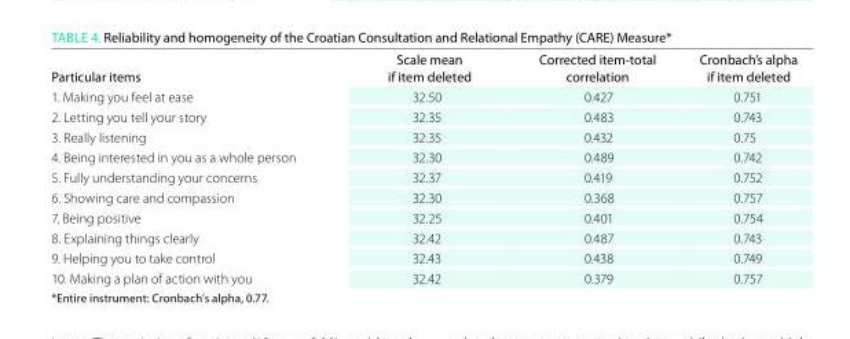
<table><thead><tr><td>Particular items</td><td>Scale mean if item deleted</td><td>Corrected item-total correlation</td><td>Cronbach’s alpha if item deleted</td></tr></thead><tbody><tr><td>1. Making you feel at ease</td><td>32.50</td><td>0.427</td><td>0.751</td></tr><tr><td>2. Letting you tell your story</td><td>32.35</td><td>0.483</td><td>0.743</td></tr><tr><td>3. Really listening</td><td>32.35</td><td>0.432</td><td>0.75</td></tr><tr><td>4. Being interested in you as a whole person</td><td>32.30</td><td>0.489</td><td>0.742</td></tr><tr><td>5. Fully understanding your concerns</td><td>32.37</td><td>0.419</td><td>0.752</td></tr><tr><td>6. Showing care and compassion</td><td>32.30</td><td>0.368</td><td>0.757</td></tr><tr><td>7. Being positive</td><td>32.25</td><td>0.401</td><td>0.754</td></tr><tr><td>8. Explaining things clearly</td><td>32.42</td><td>0.487</td><td>0.743</td></tr><tr><td>9. Helping you to take control</td><td>32.43</td><td>0.438</td><td>0.749</td></tr><tr><td>10. Making a plan of action with you</td><td>32.42</td><td>0.379</td><td>0.757</td></tr></tbody></table>